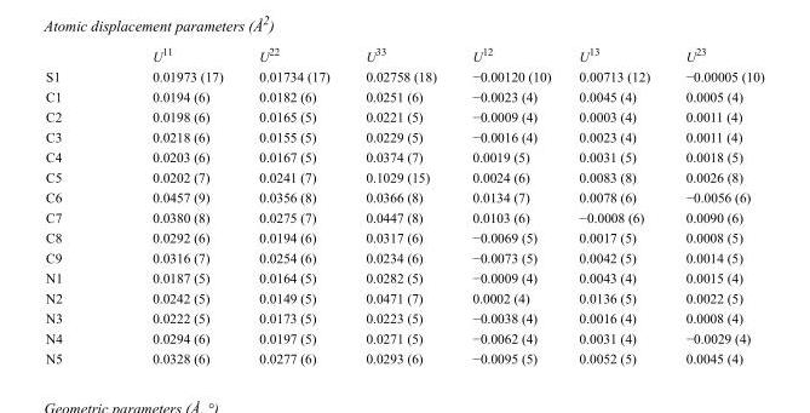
<table><thead><tr><td></td><td>U<sup>11</sup></td><td>U<sup>22</sup></td><td>U<sup>33</sup></td><td>U<sup>12</sup></td><td>U<sup>13</sup></td><td>U<sup>23</sup></td></tr></thead><tbody><tr><td>S1</td><td>0.01973 (17)</td><td>0.01734 (17)</td><td>0.02758 (18)</td><td>−0.00120 (10)</td><td>0.00713 (12)</td><td>−0.00005 (10)</td></tr><tr><td>C1</td><td>0.0194 (6)</td><td>0.0182 (6)</td><td>0.0251 (6)</td><td>−0.0023 (4)</td><td>0.0045 (4)</td><td>0.0005 (4)</td></tr><tr><td>C2</td><td>0.0198 (6)</td><td>0.0165 (5)</td><td>0.0221 (5)</td><td>−0.0009 (4)</td><td>0.0003 (4)</td><td>0.0011 (4)</td></tr><tr><td>C3</td><td>0.0218 (6)</td><td>0.0155 (5)</td><td>0.0229 (5)</td><td>−0.0016 (4)</td><td>0.0023 (4)</td><td>0.0011 (4)</td></tr><tr><td>C4</td><td>0.0203 (6)</td><td>0.0167 (5)</td><td>0.0374 (7)</td><td>0.0019 (5)</td><td>0.0031 (5)</td><td>0.0018 (5)</td></tr><tr><td>C5</td><td>0.0202 (7)</td><td>0.0241 (7)</td><td>0.1029 (15)</td><td>0.0024 (6)</td><td>0.0083 (8)</td><td>0.0026 (8)</td></tr><tr><td>C6</td><td>0.0457 (9)</td><td>0.0356 (8)</td><td>0.0366 (8)</td><td>0.0134 (7)</td><td>0.0078 (6)</td><td>−0.0056 (6)</td></tr><tr><td>C7</td><td>0.0380 (8)</td><td>0.0275 (7)</td><td>0.0447 (8)</td><td>0.0103 (6)</td><td>−0.0008 (6)</td><td>0.0090 (6)</td></tr><tr><td>C8</td><td>0.0292 (6)</td><td>0.0194 (6)</td><td>0.0317 (6)</td><td>−0.0069 (5)</td><td>0.0017 (5)</td><td>0.0008 (5)</td></tr><tr><td>C9</td><td>0.0316 (7)</td><td>0.0254 (6)</td><td>0.0234 (6)</td><td>−0.0073 (5)</td><td>0.0042 (5)</td><td>0.0014 (5)</td></tr><tr><td>N1</td><td>0.0187 (5)</td><td>0.0164 (5)</td><td>0.0282 (5)</td><td>−0.0009 (4)</td><td>0.0043 (4)</td><td>0.0015 (4)</td></tr><tr><td>N2</td><td>0.0242 (5)</td><td>0.0149 (5)</td><td>0.0471 (7)</td><td>0.0002 (4)</td><td>0.0136 (5)</td><td>0.0022 (5)</td></tr><tr><td>N3</td><td>0.0222 (5)</td><td>0.0173 (5)</td><td>0.0223 (5)</td><td>−0.0038 (4)</td><td>0.0016 (4)</td><td>0.0008 (4)</td></tr><tr><td>N4</td><td>0.0294 (6)</td><td>0.0197 (5)</td><td>0.0271 (5)</td><td>−0.0062 (4)</td><td>0.0031 (4)</td><td>−0.0029 (4)</td></tr><tr><td>N5</td><td>0.0328 (6)</td><td>0.0277 (6)</td><td>0.0293 (6)</td><td>−0.0095 (5)</td><td>0.0052 (5)</td><td>0.0045 (4)</td></tr></tbody></table>